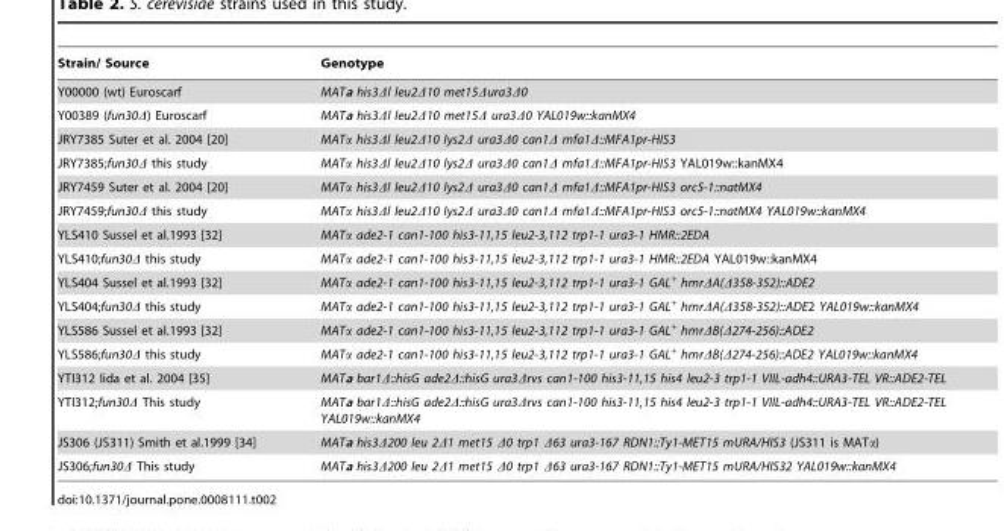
<table><thead><tr><td>Strain/ Source</td><td>Genotype</td></tr></thead><tbody><tr><td>Y00000 (wt) Euroscarf</td><td>MATa his3Δl leu2Δ10 met15Δura3Δ0</td></tr><tr><td>Y00389 (fun30Δ) Euroscarf</td><td>MATa his3Δl leu2Δ10 met15Δ ura3Δ0 YAL019w::kanMX4</td></tr><tr><td>JRY7385 Suter et al. 2004 [20]</td><td>MATα his3Δl leu2Δ10 lys2Δ ura3Δ0 can1Δ mfa1Δ::MFA1pr-HIS3</td></tr><tr><td>JRY7385;fun30Δ this study</td><td>MATα his3Δl leu2Δ10 lys2Δ ura3Δ0 can1Δ mfa1Δ::MFA1pr-HIS3 YAL019w::kanMX4</td></tr><tr><td>JRY7459 Suter et al. 2004 [20]</td><td>MATα his3Δl leu2Δ10 lys2Δ ura3Δ0 can1Δ mfa1Δ::MFA1pr-HIS3 orc5-1::natMX4</td></tr><tr><td>JRY7459;fun30Δ this study</td><td>MATα his3Δl leu2Δ10 lys2Δ ura3Δ0 can1Δ mfa1Δ::MFA1pr-HIS3 orc5-1::natMX4 YAL019w::kanMX4</td></tr><tr><td>YLS410 Sussel et al.1993 [32]</td><td>MATα ade2-1 can1-100 his3-11,15 leu2-3,112 trp1-1 ura3-1 HMR::2EDA</td></tr><tr><td>YLS410;fun30Δ this study</td><td>MATα ade2-1 can1-100 his3-11,15 leu2-3,112 trp1-1 ura3-1 HMR::2EDA YAL019w::kanMX4</td></tr><tr><td>YLS404 Sussel et al.1993 [32]</td><td>MATα ade2-1 can1-100 his3-11,15 leu2-3,112 trp1-1 ura3-1 GAL<sup>+</sup> hmrΔA(Δ358-352)::ADE2</td></tr><tr><td>YLS404;fun30Δ this study</td><td>MATα ade2-1 can1-100 his3-11,15 leu2-3,112 trp1-1 ura3-1 GAL<sup>+</sup> hmrΔA(Δ358-352)::ADE2 YAL019w::kanMX4</td></tr><tr><td>YLS586 Sussel et al.1993 [32]</td><td>MATα ade2-1 can1-100 his3-11,15 leu2-3,112 trp1-1 ura3-1 GAL<sup>+</sup> hmrΔB(Δ274-256)::ADE2</td></tr><tr><td>YLS586;fun30Δ this study</td><td>MATα ade2-1 can1-100 his3-11,15 leu2-3,112 trp1-1 ura3-1 GAL<sup>+</sup> hmrΔB(Δ274-256)::ADE2 YAL019w::kanMX4</td></tr><tr><td>YTI312 Iida et al. 2004 [35]</td><td>MATa bar1Δ::hisG ade2Δ::hisG ura3Δrvs can1-100 his3-11,15 his4 leu2-3 trp1-1 VIIL-adh4::URA3-TEL VR::ADE2-TEL</td></tr><tr><td>YTI312;fun30Δ This study</td><td>MATa bar1Δ::hisG ade2Δ::hisG ura3Δrvs can1-100 his3-11,15 his4 leu2-3 trp1-1 VIIL-adh4::URA3-TEL VR::ADE2-TEL YAL019w::kanMX4</td></tr><tr><td>JS306 (JS311) Smith et al.1999 [34]</td><td>MATa his3Δ200 leu 2Δ1 met15 Δ0 trp1 Δ63 ura3-167 RDN1::Ty1-MET15 mURA/HIS3 (JS311 is MATα)</td></tr><tr><td>JS306;fun30Δ This study</td><td>MATa his3Δ200 leu 2Δ1 met15 Δ0 trp1 Δ63 ura3-167 RDN1::Ty1-MET15 mURA/HIS32 YAL019w::kanMX4</td></tr></tbody></table>